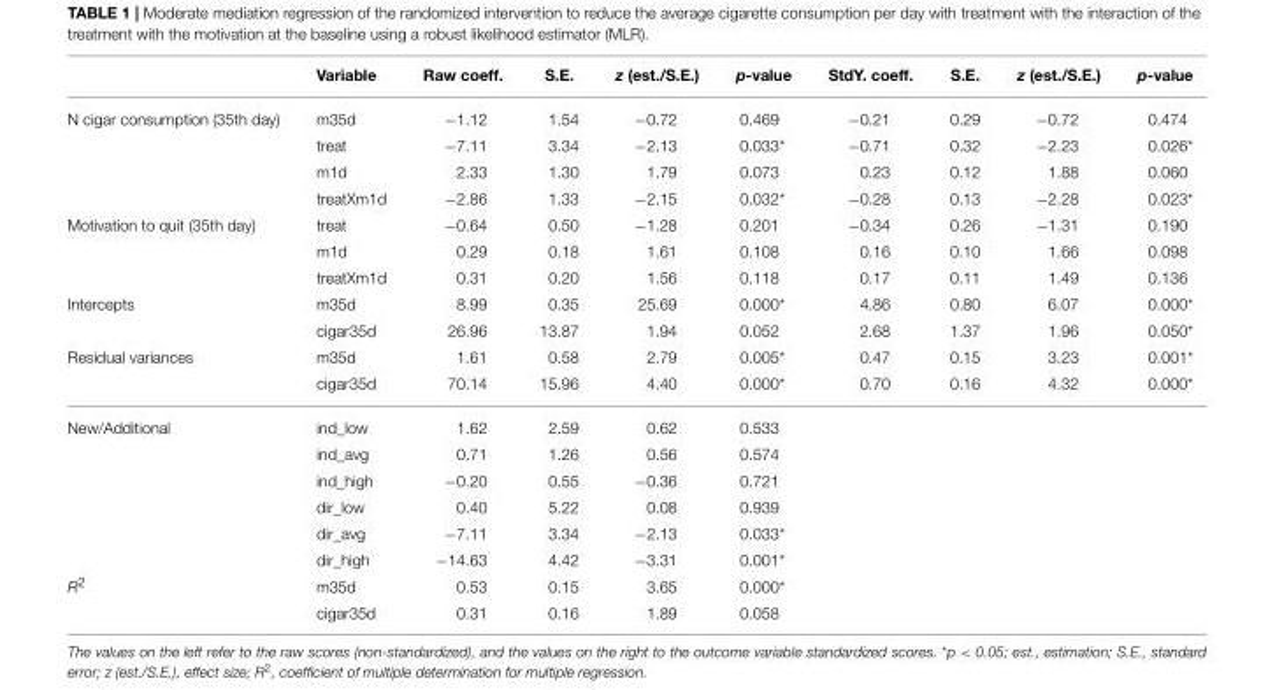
<table><thead><tr><td></td><td>Variable</td><td>Raw coeff.</td><td>S.E.</td><td>z (est./S.E.)</td><td>p-value</td><td>StdY. coeff.</td><td>S.E.</td><td>z (est./S.E.)</td><td>p-value</td></tr></thead><tbody><tr><td rowspan="4">N cigar consumption (35th day)</td><td>m35d</td><td>−1.12</td><td>1.54</td><td>−0.72</td><td>0.469</td><td>−0.21</td><td>0.29</td><td>−0.72</td><td>0.474</td></tr><tr><td>treat</td><td>−7.11</td><td>3.34</td><td>−2.13</td><td>0.033*</td><td>−0.71</td><td>0.32</td><td>−2.23</td><td>0.026*</td></tr><tr><td>m1d</td><td>2.33</td><td>1.30</td><td>1.79</td><td>0.073</td><td>0.23</td><td>0.12</td><td>1.88</td><td>0.060</td></tr><tr><td>treatXm1d</td><td>−2.86</td><td>1.33</td><td>−2.15</td><td>0.032*</td><td>−0.28</td><td>0.13</td><td>−2.28</td><td>0.023*</td></tr><tr><td rowspan="3">Motivation to quit (35th day)</td><td>treat</td><td>−0.64</td><td>0.50</td><td>−1.28</td><td>0.201</td><td>−0.34</td><td>0.26</td><td>−1.31</td><td>0.190</td></tr><tr><td>m1d</td><td>0.29</td><td>0.18</td><td>1.61</td><td>0.108</td><td>0.16</td><td>0.10</td><td>1.66</td><td>0.098</td></tr><tr><td>treatXm1d</td><td>0.31</td><td>0.20</td><td>1.56</td><td>0.118</td><td>0.17</td><td>0.11</td><td>1.49</td><td>0.136</td></tr><tr><td rowspan="2">Intercepts</td><td>m35d</td><td>8.99</td><td>0.35</td><td>25.69</td><td>0.000*</td><td>4.86</td><td>0.80</td><td>6.07</td><td>0.000*</td></tr><tr><td>cigar35d</td><td>26.96</td><td>13.87</td><td>1.94</td><td>0.052</td><td>2.68</td><td>1.37</td><td>1.96</td><td>0.050*</td></tr><tr><td rowspan="2">Residual variances</td><td>m35d</td><td>1.61</td><td>0.58</td><td>2.79</td><td>0.005*</td><td>0.47</td><td>0.15</td><td>3.23</td><td>0.001*</td></tr><tr><td>cigar35d</td><td>70.14</td><td>15.96</td><td>4.40</td><td>0.000*</td><td>0.70</td><td>0.16</td><td>4.32</td><td>0.000*</td></tr><tr><td rowspan="6">New/Additional</td><td>ind_low</td><td>1.62</td><td>2.59</td><td>0.62</td><td>0.533</td><td></td><td></td><td></td><td></td></tr><tr><td>ind_avg</td><td>0.71</td><td>1.26</td><td>0.56</td><td>0.574</td><td></td><td></td><td></td><td></td></tr><tr><td>ind_high</td><td>−0.20</td><td>0.55</td><td>−0.36</td><td>0.721</td><td></td><td></td><td></td><td></td></tr><tr><td>dir_low</td><td>0.40</td><td>5.22</td><td>0.08</td><td>0.939</td><td></td><td></td><td></td><td></td></tr><tr><td>dir_avg</td><td>−7.11</td><td>3.34</td><td>−2.13</td><td>0.033*</td><td></td><td></td><td></td><td></td></tr><tr><td>dir_high</td><td>−14.63</td><td>4.42</td><td>−3.31</td><td>0.001*</td><td></td><td></td><td></td><td></td></tr><tr><td rowspan="2">R<sup>2</sup></td><td>m35d</td><td>0.53</td><td>0.15</td><td>3.65</td><td>0.000*</td><td></td><td></td><td></td><td></td></tr><tr><td>cigar35d</td><td>0.31</td><td>0.16</td><td>1.89</td><td>0.058</td><td></td><td></td><td></td><td></td></tr></tbody></table>